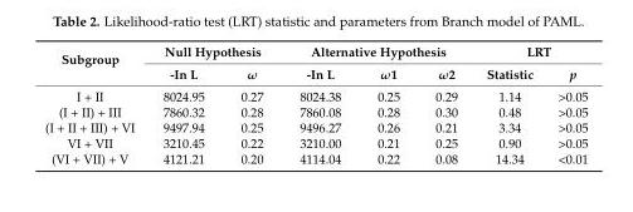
<table><thead><tr><td rowspan="2">Subgroup</td><td colspan="2">Null Hypothesis</td><td colspan="3">Alternative Hypothesis</td><td colspan="2">LRT</td></tr><tr><td>-In L</td><td>ω</td><td>-In L</td><td>ω1</td><td>ω2</td><td>Statistic</td><td>p</td></tr></thead><tbody><tr><td>I + II</td><td>8024.95</td><td>0.27</td><td>8024.38</td><td>0.25</td><td>0.29</td><td>1.14</td><td>&gt;0.05</td></tr><tr><td>(I + II) + III</td><td>7860.32</td><td>0.28</td><td>7860.08</td><td>0.28</td><td>0.30</td><td>0.48</td><td>&gt;0.05</td></tr><tr><td>(I + II + III) + VI</td><td>9497.94</td><td>0.25</td><td>9496.27</td><td>0.26</td><td>0.21</td><td>3.34</td><td>&gt;0.05</td></tr><tr><td>VI + VII</td><td>3210.45</td><td>0.22</td><td>3210.00</td><td>0.21</td><td>0.25</td><td>0.90</td><td>&gt;0.05</td></tr><tr><td>(VI + VII) + V</td><td>4121.21</td><td>0.20</td><td>4114.04</td><td>0.22</td><td>0.08</td><td>14.34</td><td>&lt;0.01</td></tr></tbody></table>